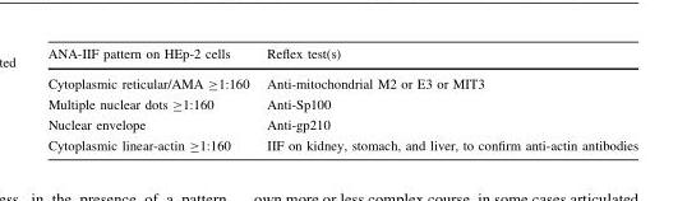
<table><thead><tr><td>ANA-IIF pattern on HEp-2 cells</td><td>Reflex test(s)</td></tr></thead><tbody><tr><td>Cytoplasmic reticular/AMA ≥1:160</td><td>Anti-mitochondrial M2 or E3 or MIT3</td></tr><tr><td>Multiple nuclear dots ≥1:160</td><td>Anti-Sp100</td></tr><tr><td>Nuclear envelope</td><td>Anti-gp210</td></tr><tr><td>Cytoplasmic linear-actin ≥1:160</td><td>IIF on kidney, stomach, and liver, to confirm anti-actin antibodies</td></tr></tbody></table>